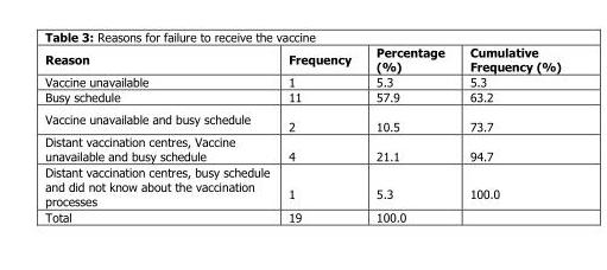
<table><thead><tr><td>Reason</td><td>Frequency</td><td>Percentage (%)</td><td>Cumulative Frequency (%)</td></tr></thead><tbody><tr><td>Vaccine unavailable</td><td>1</td><td>5.3</td><td>5.3</td></tr><tr><td>Busy schedule</td><td>11</td><td>57.9</td><td>63.2</td></tr><tr><td>Vaccine unavailable and busy schedule</td><td>2</td><td>10.5</td><td>73.7</td></tr><tr><td>Distant vaccination centres, Vaccine unavailable and busy schedule</td><td>4</td><td>21.1</td><td>94.7</td></tr><tr><td>Distant vaccination centres, busy schedule and did not know about the vaccination processes</td><td>1</td><td>5.3</td><td>100.0</td></tr><tr><td>Total</td><td>19</td><td>100.0</td><td></td></tr></tbody></table>